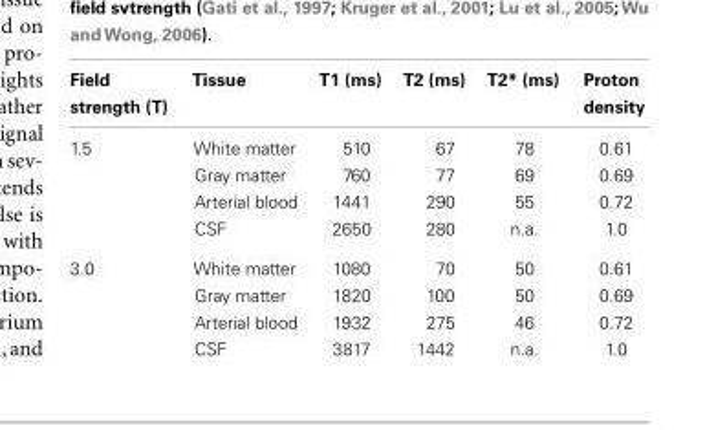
<table><thead><tr><td>Field strength (T)</td><td>Tissue</td><td>T1 (ms)</td><td>T2 (ms)</td><td>T2* (ms)</td><td>Proton density</td></tr></thead><tbody><tr><td rowspan="4">1.5</td><td>White matter</td><td>510</td><td>67</td><td>78</td><td>0.61</td></tr><tr><td>Gray matter</td><td>760</td><td>77</td><td>69</td><td>0.69</td></tr><tr><td>Arterial blood</td><td>1441</td><td>290</td><td>55</td><td>0.72</td></tr><tr><td>CSF</td><td>2650</td><td>280</td><td>n.a.</td><td>1.0</td></tr><tr><td rowspan="4">3.0</td><td>White matter</td><td>1080</td><td>70</td><td>50</td><td>0.61</td></tr><tr><td>Gray matter</td><td>1820</td><td>100</td><td>50</td><td>0.69</td></tr><tr><td>Arterial blood</td><td>1932</td><td>275</td><td>46</td><td>0.72</td></tr><tr><td>CSF</td><td>3817</td><td>1442</td><td>n.a.</td><td>1.0</td></tr></tbody></table>